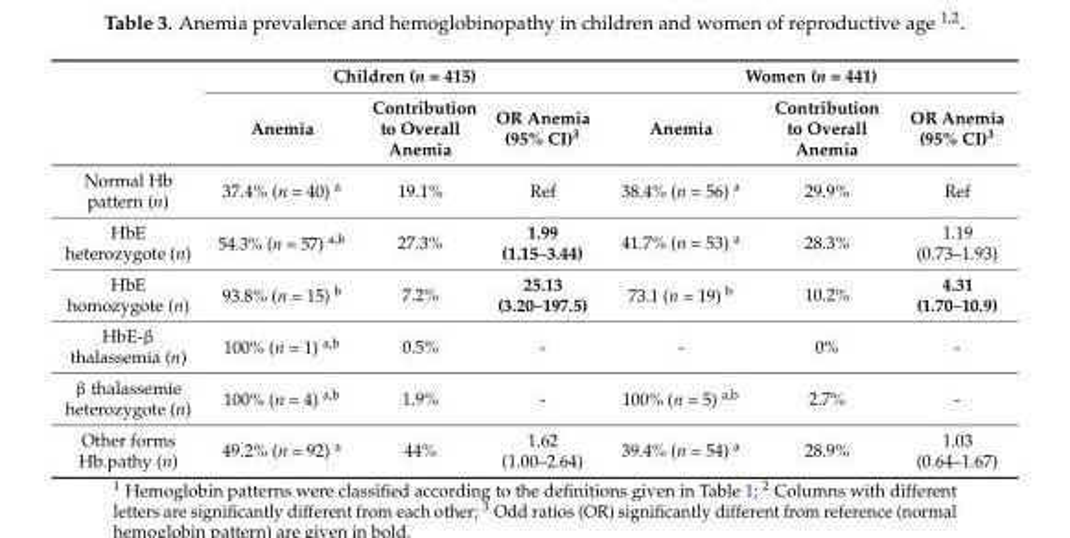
<table><thead><tr><td rowspan="2"></td><td colspan="3">Children (n = 415)</td><td colspan="3">Women (n = 441)</td></tr><tr><td>Anemia</td><td>Contribution to Overall Anemia</td><td>OR Anemia (95% CI)<sup>3</sup></td><td>Anemia</td><td>Contribution to Overall Anemia</td><td>OR Anemia (95% CI)<sup>3</sup></td></tr></thead><tbody><tr><td>Normal Hb pattern (n)</td><td>37.4% (n = 40) <sup>a</sup></td><td>19.1%</td><td>Ref</td><td>38.4% (n = 56) <sup>a</sup></td><td>29.9%</td><td>Ref</td></tr><tr><td>HbE heterozygote (n)</td><td>54.3% (n = 57) <sup>a,b</sup></td><td>27.3%</td><td>1.99 (1.15–3.44)</td><td>41.7% (n = 53) <sup>a</sup></td><td>28.3%</td><td>1.19 (0.73–1.93)</td></tr><tr><td>HbE homozygote (n)</td><td>93.8% (n = 15) <sup>b</sup></td><td>7.2%</td><td>25.13 (3.20–197.5)</td><td>73.1 (n = 19) <sup>b</sup></td><td>10.2%</td><td>4.31 (1.70–10.9)</td></tr><tr><td>HbE-β thalassemia (n)</td><td>100% (n = 1) <sup>a,b</sup></td><td>0.5%</td><td>-</td><td>-</td><td>0%</td><td>-</td></tr><tr><td>β thalassemie heterozygote (n)</td><td>100% (n = 4) <sup>a,b</sup></td><td>1.9%</td><td>-</td><td>100% (n = 5) <sup>a,b</sup></td><td>2.7%</td><td>-</td></tr><tr><td>Other forms Hb.pathy (n)</td><td>49.2% (n = 92) <sup>a</sup></td><td>44%</td><td>1.62 (1.00–2.64)</td><td>39.4% (n = 54) <sup>a</sup></td><td>28.9%</td><td>1.03 (0.64–1.67)</td></tr></tbody></table>